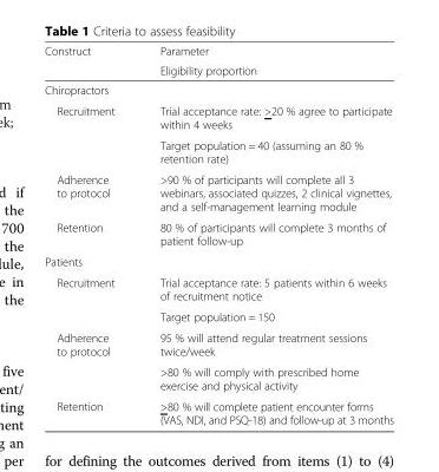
<table><thead><tr><td rowspan="2">Construct</td><td rowspan="2">Parameter Eligibility proportion</td></tr><tr></tr></thead><tbody><tr><td colspan="2">Chiropractors</td></tr><tr><td rowspan="2">Recruitment</td><td>Trial acceptance rate: &gt;20 % agree to participate within 4 weeks</td></tr><tr><td>Target population = 40 (assuming an 80 % retention rate)</td></tr><tr><td>Adherence to protocol</td><td>&gt;90 % of participants will complete all 3 webinars, associated quizzes, 2 clinical vignettes, and a self-management learning module</td></tr><tr><td>Retention</td><td>80 % of participants will complete 3 months of patient follow-up</td></tr><tr><td colspan="2">Patients</td></tr><tr><td rowspan="2">Recruitment</td><td>Trial acceptance rate: 5 patients within 6 weeks of recruitment notice</td></tr><tr><td>Target population = 150</td></tr><tr><td rowspan="2">Adherence to protocol</td><td>95 % will attend regular treatment sessions twice/week</td></tr><tr><td>&gt;80 % will comply with prescribed home exercise and physical activity</td></tr><tr><td>Retention</td><td>&gt;80 % will complete patient encounter forms (VAS, NDI, and PSQ-18) and follow-up at 3 months</td></tr></tbody></table>